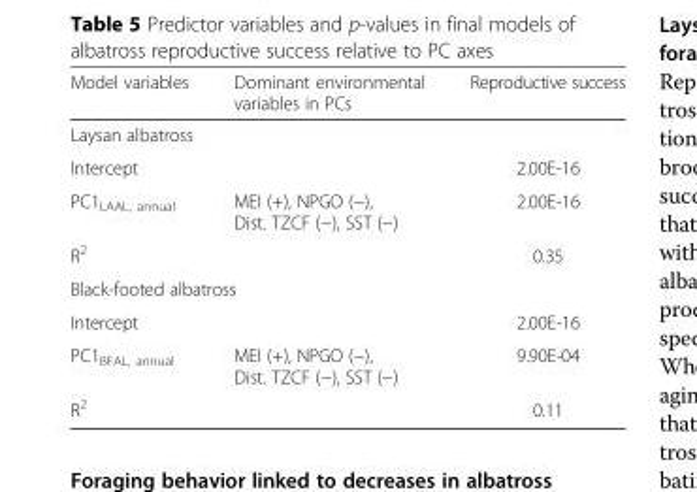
<table><thead><tr><td>Model variables</td><td>Dominant environmental variables in PCs</td><td>Reproductive success</td></tr></thead><tbody><tr><td colspan="3">Laysan albatross</td></tr><tr><td>Intercept</td><td></td><td>2.00E-16</td></tr><tr><td>PC1<sub>LAAL, annual</sub></td><td>MEI (+), NPGO (−), Dist. TZCF (−), SST (−)</td><td>2.00E-16</td></tr><tr><td>R<sup>2</sup></td><td></td><td>0.35</td></tr><tr><td colspan="3">Black-footed albatross</td></tr><tr><td>Intercept</td><td></td><td>2.00E-16</td></tr><tr><td>PC1<sub>BFAL, annual</sub></td><td>MEI (+), NPGO (−), Dist. TZCF (−), SST (−)</td><td>9.90E-04</td></tr><tr><td>R<sup>2</sup></td><td></td><td>0.11</td></tr></tbody></table>